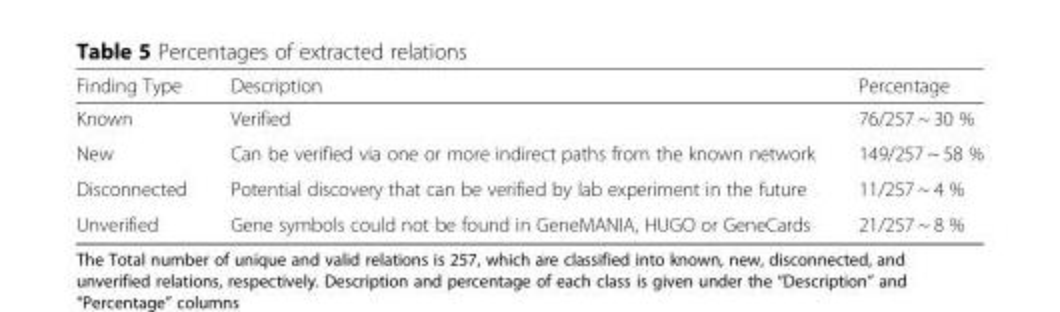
<table><thead><tr><td>Finding Type</td><td>Description</td><td>Percentage</td></tr></thead><tbody><tr><td>Known</td><td>Verified</td><td>76/257 ~ 30 %</td></tr><tr><td>New</td><td>Can be verified via one or more indirect paths from the known network</td><td>149/257 ~ 58 %</td></tr><tr><td>Disconnected</td><td>Potential discovery that can be verified by lab experiment in the future</td><td>11/257 ~ 4 %</td></tr><tr><td>Unverified</td><td>Gene symbols could not be found in GeneMANIA, HUGO or GeneCards</td><td>21/257 ~ 8 %</td></tr></tbody></table>